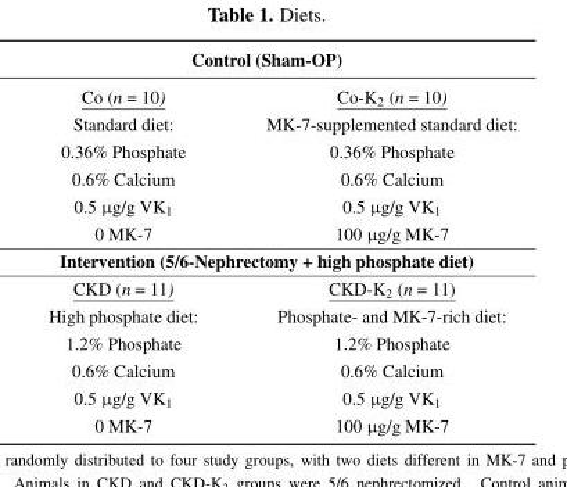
<table><thead><tr><td colspan="2">Control (Sham-OP)</td></tr><tr><td>Co (n = 10)</td><td>Co-K<sub>2</sub> (n = 10)</td></tr></thead><tbody><tr><td>Standard diet:</td><td>MK-7-supplemented standard diet:</td></tr><tr><td>0.36% Phosphate</td><td>0.36% Phosphate</td></tr><tr><td>0.6% Calcium</td><td>0.6% Calcium</td></tr><tr><td>0.5 µg/g VK<sub>1</sub></td><td>0.5 µg/g VK<sub>1</sub></td></tr><tr><td>0 MK-7</td><td>100 µg/g MK-7</td></tr><tr><td colspan="2">Intervention (5/6-Nephrectomy + high phosphate diet)</td></tr><tr><td>CKD (n = 11)</td><td>CKD-K<sub>2</sub> (n = 11)</td></tr><tr><td>High phosphate diet:</td><td>Phosphate- and MK-7-rich diet:</td></tr><tr><td>1.2% Phosphate</td><td>1.2% Phosphate</td></tr><tr><td>0.6% Calcium</td><td>0.6% Calcium</td></tr><tr><td>0.5 µg/g VK<sub>1</sub></td><td>0.5 µg/g VK<sub>1</sub></td></tr><tr><td>0 MK-7</td><td>100 µg/g MK-7</td></tr></tbody></table>